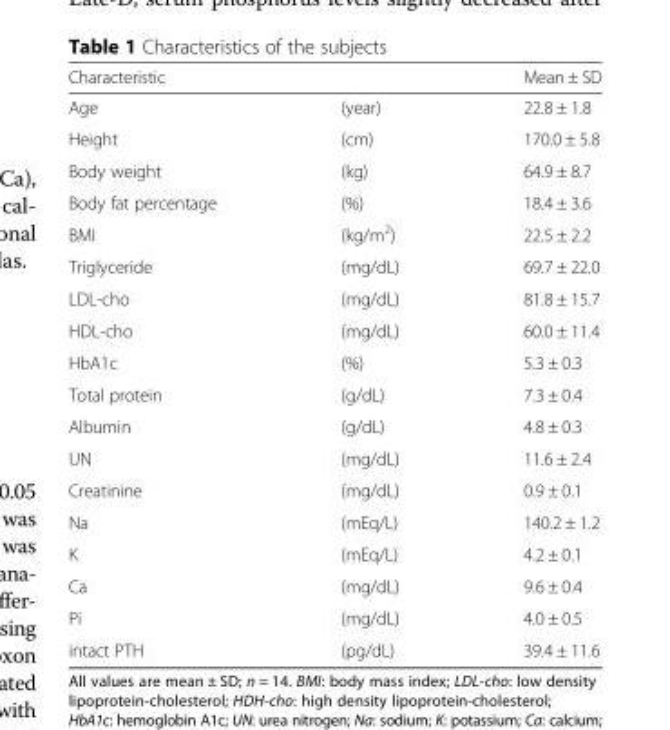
<table><thead><tr><td colspan="2">Characteristic</td><td rowspan="2">Mean ± SD 22.8 ± 1.8</td></tr><tr><td>Age</td><td>(year)</td></tr></thead><tbody><tr><td>Height</td><td>(cm)</td><td>170.0 ± 5.8</td></tr><tr><td>Body weight</td><td>(kg)</td><td>64.9 ± 8.7</td></tr><tr><td>Body fat percentage</td><td>(%)</td><td>18.4 ± 3.6</td></tr><tr><td>BMI</td><td>(kg/m<sup>2</sup>)</td><td>22.5 ± 2.2</td></tr><tr><td>Triglyceride</td><td>(mg/dL)</td><td>69.7 ± 22.0</td></tr><tr><td>LDL-cho</td><td>(mg/dL)</td><td>81.8 ± 15.7</td></tr><tr><td>HDL-cho</td><td>(mg/dL)</td><td>60.0 ± 11.4</td></tr><tr><td>HbA1c</td><td>(%)</td><td>5.3 ± 0.3</td></tr><tr><td>Total protein</td><td>(g/dL)</td><td>7.3 ± 0.4</td></tr><tr><td>Albumin</td><td>(g/dL)</td><td>4.8 ± 0.3</td></tr><tr><td>UN</td><td>(mg/dL)</td><td>11.6 ± 2.4</td></tr><tr><td>Creatinine</td><td>(mg/dL)</td><td>0.9 ± 0.1</td></tr><tr><td>Na</td><td>(mEq/L)</td><td>140.2 ± 1.2</td></tr><tr><td>K</td><td>(mEq/L)</td><td>4.2 ± 0.1</td></tr><tr><td>Ca</td><td>(mg/dL)</td><td>9.6 ± 0.4</td></tr><tr><td>Pi</td><td>(mg/dL)</td><td>4.0 ± 0.5</td></tr><tr><td>intact PTH</td><td>(pg/dL)</td><td>39.4 ± 11.6</td></tr></tbody></table>